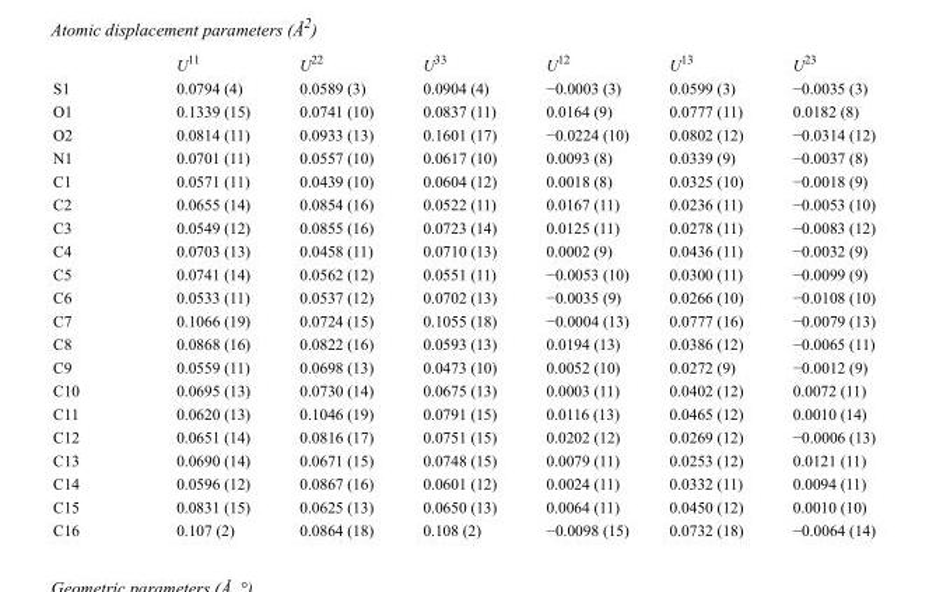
<table><thead><tr><td></td><td>U<sup>11</sup></td><td>U<sup>22</sup></td><td>U<sup>33</sup></td><td>U<sup>12</sup></td><td>U<sup>13</sup></td><td>U<sup>23</sup></td></tr></thead><tbody><tr><td>S1</td><td>0.0794 (4)</td><td>0.0589 (3)</td><td>0.0904 (4)</td><td>−0.0003 (3)</td><td>0.0599 (3)</td><td>−0.0035 (3)</td></tr><tr><td>O1</td><td>0.1339 (15)</td><td>0.0741 (10)</td><td>0.0837 (11)</td><td>0.0164 (9)</td><td>0.0777 (11)</td><td>0.0182 (8)</td></tr><tr><td>O2</td><td>0.0814 (11)</td><td>0.0933 (13)</td><td>0.1601 (17)</td><td>−0.0224 (10)</td><td>0.0802 (12)</td><td>−0.0314 (12)</td></tr><tr><td>N1</td><td>0.0701 (11)</td><td>0.0557 (10)</td><td>0.0617 (10)</td><td>0.0093 (8)</td><td>0.0339 (9)</td><td>−0.0037 (8)</td></tr><tr><td>C1</td><td>0.0571 (11)</td><td>0.0439 (10)</td><td>0.0604 (12)</td><td>0.0018 (8)</td><td>0.0325 (10)</td><td>−0.0018 (9)</td></tr><tr><td>C2</td><td>0.0655 (14)</td><td>0.0854 (16)</td><td>0.0522 (11)</td><td>0.0167 (11)</td><td>0.0236 (11)</td><td>−0.0053 (10)</td></tr><tr><td>C3</td><td>0.0549 (12)</td><td>0.0855 (16)</td><td>0.0723 (14)</td><td>0.0125 (11)</td><td>0.0278 (11)</td><td>−0.0083 (12)</td></tr><tr><td>C4</td><td>0.0703 (13)</td><td>0.0458 (11)</td><td>0.0710 (13)</td><td>0.0002 (9)</td><td>0.0436 (11)</td><td>−0.0032 (9)</td></tr><tr><td>C5</td><td>0.0741 (14)</td><td>0.0562 (12)</td><td>0.0551 (11)</td><td>−0.0053 (10)</td><td>0.0300 (11)</td><td>−0.0099 (9)</td></tr><tr><td>C6</td><td>0.0533 (11)</td><td>0.0537 (12)</td><td>0.0702 (13)</td><td>−0.0035 (9)</td><td>0.0266 (10)</td><td>−0.0108 (10)</td></tr><tr><td>C7</td><td>0.1066 (19)</td><td>0.0724 (15)</td><td>0.1055 (18)</td><td>−0.0004 (13)</td><td>0.0777 (16)</td><td>−0.0079 (13)</td></tr><tr><td>C8</td><td>0.0868 (16)</td><td>0.0822 (16)</td><td>0.0593 (13)</td><td>0.0194 (13)</td><td>0.0386 (12)</td><td>−0.0065 (11)</td></tr><tr><td>C9</td><td>0.0559 (11)</td><td>0.0698 (13)</td><td>0.0473 (10)</td><td>0.0052 (10)</td><td>0.0272 (9)</td><td>−0.0012 (9)</td></tr><tr><td>C10</td><td>0.0695 (13)</td><td>0.0730 (14)</td><td>0.0675 (13)</td><td>0.0003 (11)</td><td>0.0402 (12)</td><td>0.0072 (11)</td></tr><tr><td>C11</td><td>0.0620 (13)</td><td>0.1046 (19)</td><td>0.0791 (15)</td><td>0.0116 (13)</td><td>0.0465 (12)</td><td>0.0010 (14)</td></tr><tr><td>C12</td><td>0.0651 (14)</td><td>0.0816 (17)</td><td>0.0751 (15)</td><td>0.0202 (12)</td><td>0.0269 (12)</td><td>−0.0006 (13)</td></tr><tr><td>C13</td><td>0.0690 (14)</td><td>0.0671 (15)</td><td>0.0748 (15)</td><td>0.0079 (11)</td><td>0.0253 (12)</td><td>0.0121 (11)</td></tr><tr><td>C14</td><td>0.0596 (12)</td><td>0.0867 (16)</td><td>0.0601 (12)</td><td>0.0024 (11)</td><td>0.0332 (11)</td><td>0.0094 (11)</td></tr><tr><td>C15</td><td>0.0831 (15)</td><td>0.0625 (13)</td><td>0.0650 (13)</td><td>0.0064 (11)</td><td>0.0450 (12)</td><td>0.0010 (10)</td></tr><tr><td>C16</td><td>0.107 (2)</td><td>0.0864 (18)</td><td>0.108 (2)</td><td>−0.0098 (15)</td><td>0.0732 (18)</td><td>−0.0064 (14)</td></tr></tbody></table>